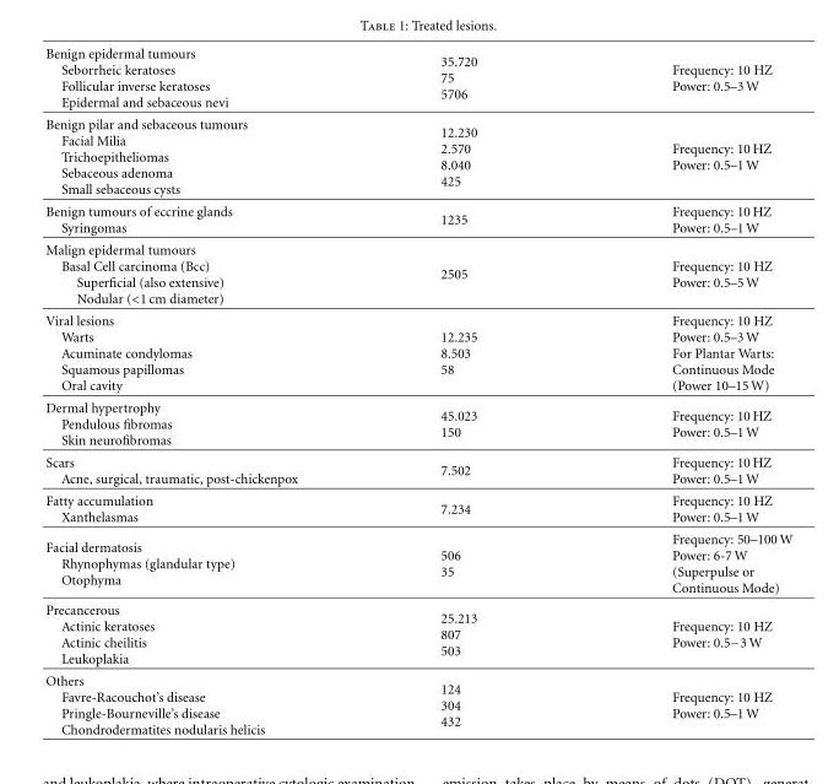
<table><thead><tr><td>Benign epidermal tumours Seborrheic keratoses Follicular inverse keratoses Epidermal and sebaceous nevi</td><td>35.720 75 5706</td><td>Frequency: 10 HZ Power: 0.5–3 W</td></tr></thead><tbody><tr><td>Benign pilar and sebaceous tumours Facial Milia Trichoepitheliomas Sebaceous adenoma Small sebaceous cysts</td><td>12.230 2.570 8.040 425</td><td>Frequency: 10 HZ Power: 0.5–1 W</td></tr><tr><td>Benign tumours of eccrine glands Syringomas</td><td>1235</td><td>Frequency: 10 HZ Power: 0.5–1 W</td></tr><tr><td>Malign epidermal tumours Basal Cell carcinoma (Bcc) Superficial (also extensive) Nodular (&lt;1 cm diameter)</td><td>2505</td><td>Frequency: 10 HZ Power: 0.5–5 W</td></tr><tr><td>Viral lesions Warts Acuminate condylomas Squamous papillomas Oral cavity</td><td>12.235 8.503 58</td><td>Frequency: 10 HZ Power: 0.5–3 W For Plantar Warts: Continuous Mode (Power 10–15 W)</td></tr><tr><td>Dermal hypertrophy Pendulous fibromas Skin neurofibromas</td><td>45.023 150</td><td>Frequency: 10 HZ Power: 0.5–1 W</td></tr><tr><td>Scars Acne, surgical, traumatic, post-chickenpox</td><td>7.502</td><td>Frequency: 10 HZ Power: 0.5–1 W</td></tr><tr><td>Fatty accumulation Xanthelasmas</td><td>7.234</td><td>Frequency: 10 HZ Power: 0.5–1 W</td></tr><tr><td>Facial dermatosis Rhynophymas (glandular type) Otophyma</td><td>506 35</td><td>Frequency: 50–100 W Power: 6-7 W (Superpulse or Continuous Mode)</td></tr><tr><td>Precancerous Actinic keratoses Actinic cheilitis Leukoplakia</td><td>25.213 807 503</td><td>Frequency: 10 HZ Power: 0.5−3 W</td></tr><tr><td>Others Favre-Racouchot’s disease Pringle-Bourneville’s disease Chondrodermatites nodularis helicis</td><td>124 304 432</td><td>Frequency: 10 HZ Power: 0.5–1 W</td></tr></tbody></table>